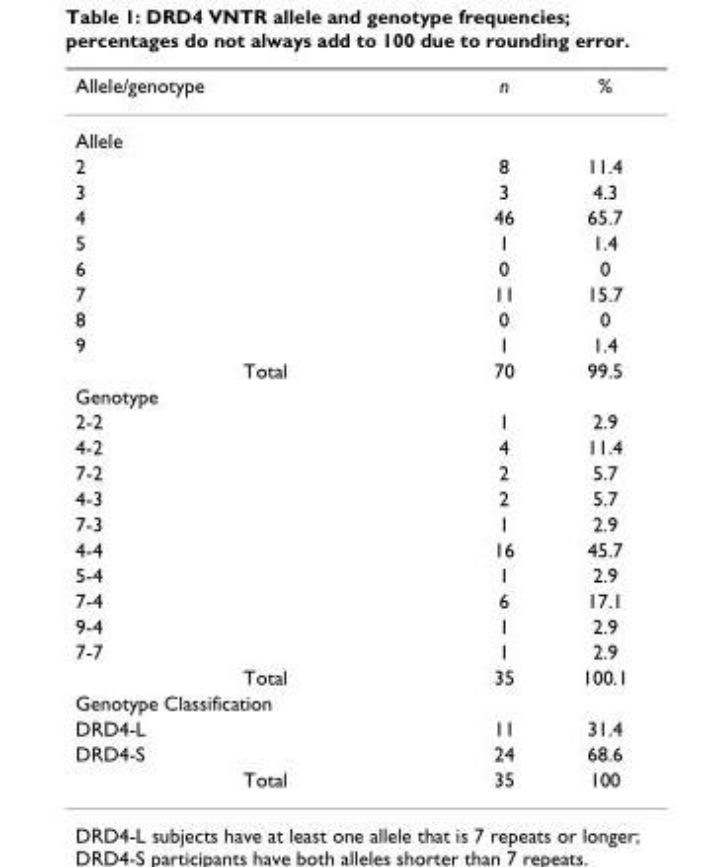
<table><thead><tr><td>Allele/genotype</td><td>n</td><td>%</td></tr></thead><tbody><tr><td colspan="3">Allele</td></tr><tr><td>2</td><td>8</td><td>11.4</td></tr><tr><td>3</td><td>3</td><td>4.3</td></tr><tr><td>4</td><td>46</td><td>65.7</td></tr><tr><td>5</td><td>1</td><td>1.4</td></tr><tr><td>6</td><td>0</td><td>0</td></tr><tr><td>7</td><td>11</td><td>15.7</td></tr><tr><td>8</td><td>0</td><td>0</td></tr><tr><td>9</td><td>1</td><td>1.4</td></tr><tr><td>Total</td><td>70</td><td>99.5</td></tr><tr><td colspan="3">Genotype</td></tr><tr><td>2-2</td><td>1</td><td>2.9</td></tr><tr><td>4-2</td><td>4</td><td>11.4</td></tr><tr><td>7-2</td><td>2</td><td>5.7</td></tr><tr><td>4-3</td><td>2</td><td>5.7</td></tr><tr><td>7-3</td><td>1</td><td>2.9</td></tr><tr><td>4-4</td><td>16</td><td>45.7</td></tr><tr><td>5-4</td><td>1</td><td>2.9</td></tr><tr><td>7-4</td><td>6</td><td>17.1</td></tr><tr><td>9-4</td><td>1</td><td>2.9</td></tr><tr><td>7-7</td><td>1</td><td>2.9</td></tr><tr><td>Total</td><td>35</td><td>100.1</td></tr><tr><td colspan="3">Genotype Classification</td></tr><tr><td>DRD4-L</td><td>11</td><td>31.4</td></tr><tr><td>DRD4-S</td><td>24</td><td>68.6</td></tr><tr><td>Total</td><td>35</td><td>100</td></tr></tbody></table>